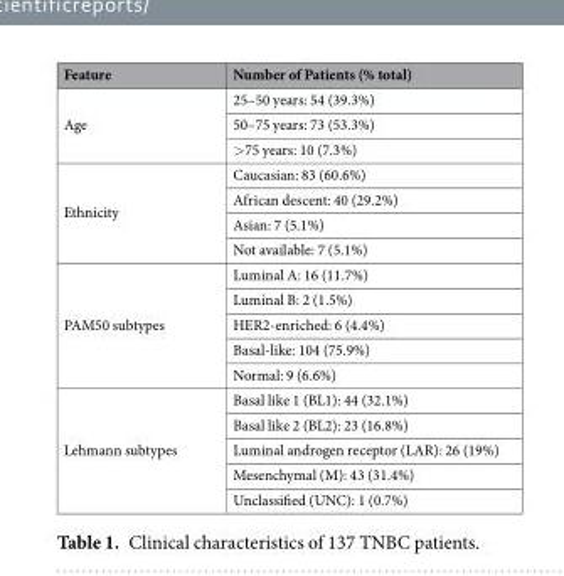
<table><thead><tr><td>Feature</td><td>Number of Patients (% total)</td></tr></thead><tbody><tr><td rowspan="3">Age</td><td>25–50 years: 54 (39.3%)</td></tr><tr><td>50–75 years: 73 (53.3%)</td></tr><tr><td>&gt;75 years: 10 (7.3%)</td></tr><tr><td rowspan="4">Ethnicity</td><td>Caucasian: 83 (60.6%)</td></tr><tr><td>African descent: 40 (29.2%)</td></tr><tr><td>Asian: 7 (5.1%)</td></tr><tr><td>Not available: 7 (5.1%)</td></tr><tr><td rowspan="5">PAM50 subtypes</td><td>Luminal A: 16 (11.7%)</td></tr><tr><td>Luminal B: 2 (1.5%)</td></tr><tr><td>HER2-enriched: 6 (4.4%)</td></tr><tr><td>Basal-like: 104 (75.9%)</td></tr><tr><td>Normal: 9 (6.6%)</td></tr><tr><td rowspan="5">Lehmann subtypes</td><td>Basal like 1 (BL1): 44 (32.1%)</td></tr><tr><td>Basal like 2 (BL2): 23 (16.8%)</td></tr><tr><td>Luminal androgen receptor (LAR): 26 (19%)</td></tr><tr><td>Mesenchymal (M): 43 (31.4%)</td></tr><tr><td>Unclassified (UNC): 1 (0.7%)</td></tr></tbody></table>